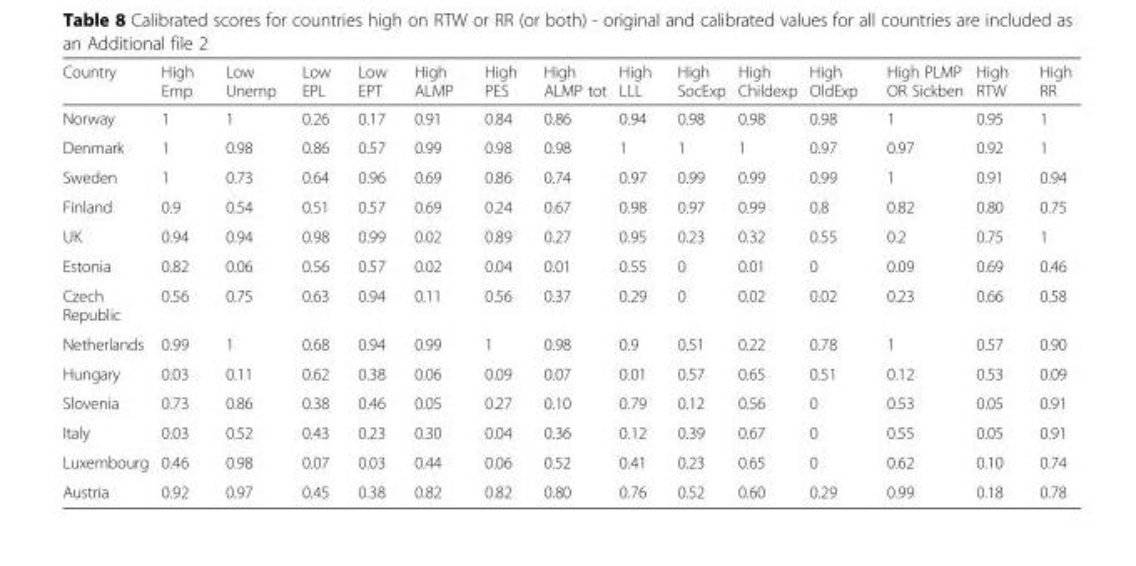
<table><thead><tr><td>Country</td><td>High Emp</td><td>Low Unemp</td><td>Low EPL</td><td>Low EPT</td><td>High ALMP</td><td>High PES</td><td>High ALMP tot</td><td>High LLL</td><td>High SocExp</td><td>High Childexp</td><td>High OldExp</td><td>High PLMP OR Sickben</td><td>High RTW</td><td>High RR</td></tr></thead><tbody><tr><td>Norway</td><td>1</td><td>1</td><td>0.26</td><td>0.17</td><td>0.91</td><td>0.84</td><td>0.86</td><td>0.94</td><td>0.98</td><td>0.98</td><td>0.98</td><td>1</td><td>0.95</td><td>1</td></tr><tr><td>Denmark</td><td>1</td><td>0.98</td><td>0.86</td><td>0.57</td><td>0.99</td><td>0.98</td><td>0.98</td><td>1</td><td>1</td><td>1</td><td>0.97</td><td>0.97</td><td>0.92</td><td>1</td></tr><tr><td>Sweden</td><td>1</td><td>0.73</td><td>0.64</td><td>0.96</td><td>0.69</td><td>0.86</td><td>0.74</td><td>0.97</td><td>0.99</td><td>0.99</td><td>0.99</td><td>1</td><td>0.91</td><td>0.94</td></tr><tr><td>Finland</td><td>0.9</td><td>0.54</td><td>0.51</td><td>0.57</td><td>0.69</td><td>0.24</td><td>0.67</td><td>0.98</td><td>0.97</td><td>0.99</td><td>0.8</td><td>0.82</td><td>0.80</td><td>0.75</td></tr><tr><td>UK</td><td>0.94</td><td>0.94</td><td>0.98</td><td>0.99</td><td>0.02</td><td>0.89</td><td>0.27</td><td>0.95</td><td>0.23</td><td>0.32</td><td>0.55</td><td>0.2</td><td>0.75</td><td>1</td></tr><tr><td>Estonia</td><td>0.82</td><td>0.06</td><td>0.56</td><td>0.57</td><td>0.02</td><td>0.04</td><td>0.01</td><td>0.55</td><td>0</td><td>0.01</td><td>0</td><td>0.09</td><td>0.69</td><td>0.46</td></tr><tr><td>Czech Republic</td><td>0.56</td><td>0.75</td><td>0.63</td><td>0.94</td><td>0.11</td><td>0.56</td><td>0.37</td><td>0.29</td><td>0</td><td>0.02</td><td>0.02</td><td>0.23</td><td>0.66</td><td>0.58</td></tr><tr><td>Netherlands</td><td>0.99</td><td>1</td><td>0.68</td><td>0.94</td><td>0.99</td><td>1</td><td>0.98</td><td>0.9</td><td>0.51</td><td>0.22</td><td>0.78</td><td>1</td><td>0.57</td><td>0.90</td></tr><tr><td>Hungary</td><td>0.03</td><td>0.11</td><td>0.62</td><td>0.38</td><td>0.06</td><td>0.09</td><td>0.07</td><td>0.01</td><td>0.57</td><td>0.65</td><td>0.51</td><td>0.12</td><td>0.53</td><td>0.09</td></tr><tr><td>Slovenia</td><td>0.73</td><td>0.86</td><td>0.38</td><td>0.46</td><td>0.05</td><td>0.27</td><td>0.10</td><td>0.79</td><td>0.12</td><td>0.56</td><td>0</td><td>0.53</td><td>0.05</td><td>0.91</td></tr><tr><td>Italy</td><td>0.03</td><td>0.52</td><td>0.43</td><td>0.23</td><td>0.30</td><td>0.04</td><td>0.36</td><td>0.12</td><td>0.39</td><td>0.67</td><td>0</td><td>0.55</td><td>0.05</td><td>0.91</td></tr><tr><td>Luxembourg</td><td>0.46</td><td>0.98</td><td>0.07</td><td>0.03</td><td>0.44</td><td>0.06</td><td>0.52</td><td>0.41</td><td>0.23</td><td>0.65</td><td>0</td><td>0.62</td><td>0.10</td><td>0.74</td></tr><tr><td>Austria</td><td>0.92</td><td>0.97</td><td>0.45</td><td>0.38</td><td>0.82</td><td>0.82</td><td>0.80</td><td>0.76</td><td>0.52</td><td>0.60</td><td>0.29</td><td>0.99</td><td>0.18</td><td>0.78</td></tr></tbody></table>